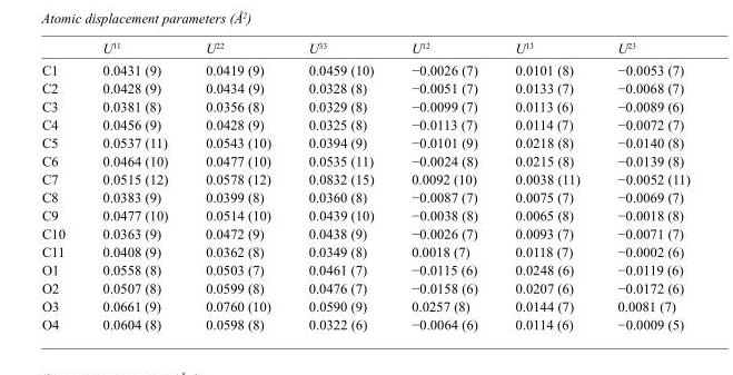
<table><thead><tr><td></td><td>U<sup>11</sup></td><td>U<sup>22</sup></td><td>U<sup>33</sup></td><td>U<sup>12</sup></td><td>U<sup>13</sup></td><td>U<sup>23</sup></td></tr></thead><tbody><tr><td>C1</td><td>0.0431 (9)</td><td>0.0419 (9)</td><td>0.0459 (10)</td><td>−0.0026 (7)</td><td>0.0101 (8)</td><td>−0.0053 (7)</td></tr><tr><td>C2</td><td>0.0428 (9)</td><td>0.0434 (9)</td><td>0.0328 (8)</td><td>−0.0051 (7)</td><td>0.0133 (7)</td><td>−0.0068 (7)</td></tr><tr><td>C3</td><td>0.0381 (8)</td><td>0.0356 (8)</td><td>0.0329 (8)</td><td>−0.0099 (7)</td><td>0.0113 (6)</td><td>−0.0089 (6)</td></tr><tr><td>C4</td><td>0.0456 (9)</td><td>0.0428 (9)</td><td>0.0325 (8)</td><td>−0.0113 (7)</td><td>0.0114 (7)</td><td>−0.0072 (7)</td></tr><tr><td>C5</td><td>0.0537 (11)</td><td>0.0543 (10)</td><td>0.0394 (9)</td><td>−0.0101 (9)</td><td>0.0218 (8)</td><td>−0.0140 (8)</td></tr><tr><td>C6</td><td>0.0464 (10)</td><td>0.0477 (10)</td><td>0.0535 (11)</td><td>−0.0024 (8)</td><td>0.0215 (8)</td><td>−0.0139 (8)</td></tr><tr><td>C7</td><td>0.0515 (12)</td><td>0.0578 (12)</td><td>0.0832 (15)</td><td>0.0092 (10)</td><td>0.0038 (11)</td><td>−0.0052 (11)</td></tr><tr><td>C8</td><td>0.0383 (9)</td><td>0.0399 (8)</td><td>0.0360 (8)</td><td>−0.0087 (7)</td><td>0.0075 (7)</td><td>−0.0069 (7)</td></tr><tr><td>C9</td><td>0.0477 (10)</td><td>0.0514 (10)</td><td>0.0439 (10)</td><td>−0.0038 (8)</td><td>0.0065 (8)</td><td>−0.0018 (8)</td></tr><tr><td>C10</td><td>0.0363 (9)</td><td>0.0472 (9)</td><td>0.0438 (9)</td><td>−0.0026 (7)</td><td>0.0093 (7)</td><td>−0.0071 (7)</td></tr><tr><td>C11</td><td>0.0408 (9)</td><td>0.0362 (8)</td><td>0.0349 (8)</td><td>0.0018 (7)</td><td>0.0118 (7)</td><td>−0.0002 (6)</td></tr><tr><td>O1</td><td>0.0558 (8)</td><td>0.0503 (7)</td><td>0.0461 (7)</td><td>−0.0115 (6)</td><td>0.0248 (6)</td><td>−0.0119 (6)</td></tr><tr><td>O2</td><td>0.0507 (8)</td><td>0.0599 (8)</td><td>0.0476 (7)</td><td>−0.0158 (6)</td><td>0.0207 (6)</td><td>−0.0172 (6)</td></tr><tr><td>O3</td><td>0.0661 (9)</td><td>0.0760 (10)</td><td>0.0590 (9)</td><td>0.0257 (8)</td><td>0.0144 (7)</td><td>0.0081 (7)</td></tr><tr><td>O4</td><td>0.0604 (8)</td><td>0.0598 (8)</td><td>0.0322 (6)</td><td>−0.0064 (6)</td><td>0.0114 (6)</td><td>−0.0009 (5)</td></tr></tbody></table>